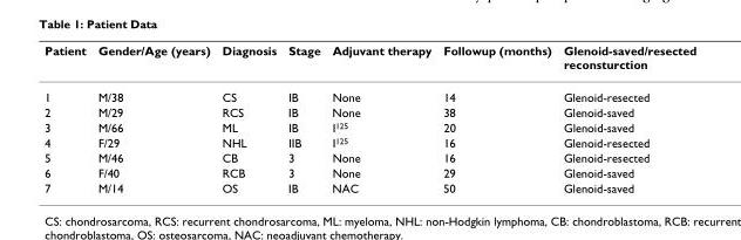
<table><thead><tr><td>Patient</td><td>Gender/Age (years)</td><td>Diagnosis</td><td>Stage</td><td>Adjuvant therapy</td><td>Followup (months)</td><td>Glenoid-saved/resected reconsturction</td></tr></thead><tbody><tr><td>1</td><td>M/38</td><td>CS</td><td>IB</td><td>None</td><td>14</td><td>Glenoid-resected</td></tr><tr><td>2</td><td>M/29</td><td>RCS</td><td>IB</td><td>None</td><td>38</td><td>Glenoid-saved</td></tr><tr><td>3</td><td>M/66</td><td>ML</td><td>IB</td><td>I<sup>125</sup></td><td>20</td><td>Glenoid-saved</td></tr><tr><td>4</td><td>F/29</td><td>NHL</td><td>IIB</td><td>I<sup>125</sup></td><td>16</td><td>Glenoid-resected</td></tr><tr><td>5</td><td>M/46</td><td>CB</td><td>3</td><td>None</td><td>16</td><td>Glenoid-resected</td></tr><tr><td>6</td><td>F/40</td><td>RCB</td><td>3</td><td>None</td><td>29</td><td>Glenoid-saved</td></tr><tr><td>7</td><td>M/14</td><td>OS</td><td>IB</td><td>NAC</td><td>50</td><td>Glenoid-saved</td></tr></tbody></table>